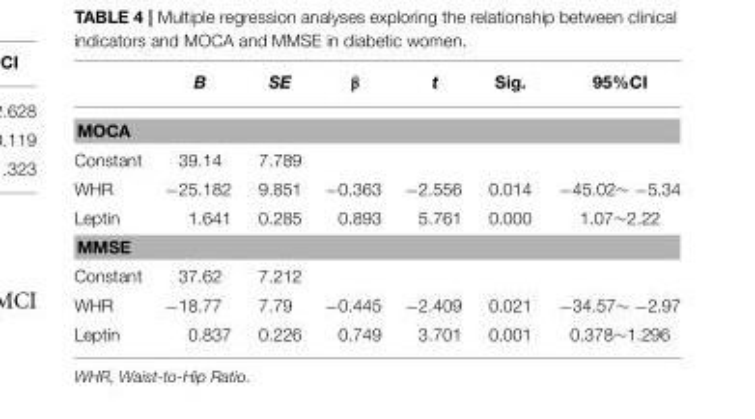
<table><thead><tr><td></td><td>B</td><td>SE</td><td>β</td><td>t</td><td>Sig.</td><td>95%CI</td></tr></thead><tbody><tr><td colspan="7">MOCA</td></tr><tr><td>Constant</td><td>39.14</td><td>7.789</td><td></td><td></td><td></td><td></td></tr><tr><td>WHR</td><td>−25.182</td><td>9.851</td><td>−0.363</td><td>−2.556</td><td>0.014</td><td>−45.02∼ −5.34</td></tr><tr><td>Leptin</td><td>1.641</td><td>0.285</td><td>0.893</td><td>5.761</td><td>0.000</td><td>1.07∼2.22</td></tr><tr><td colspan="7">MMSE</td></tr><tr><td>Constant</td><td>37.62</td><td>7.212</td><td></td><td></td><td></td><td></td></tr><tr><td>WHR</td><td>−18.77</td><td>7.79</td><td>−0.445</td><td>−2.409</td><td>0.021</td><td>−34.57∼ −2.97</td></tr><tr><td>Leptin</td><td>0.837</td><td>0.226</td><td>0.749</td><td>3.701</td><td>0.001</td><td>0.378∼1.296</td></tr></tbody></table>